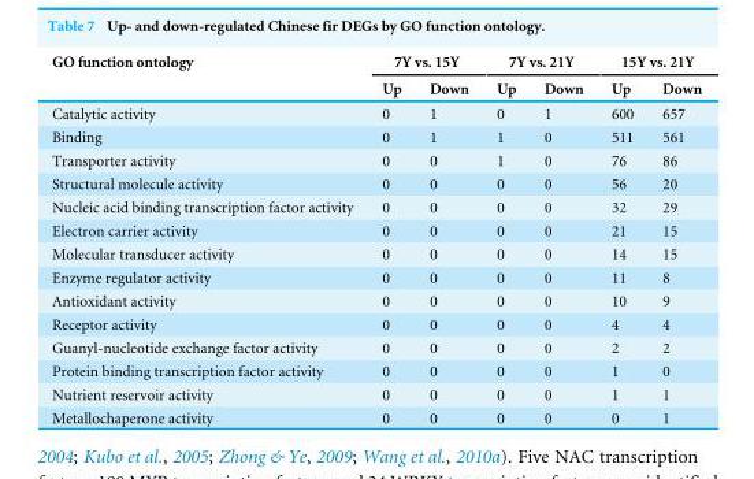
<table><thead><tr><td rowspan="2">GO function ontology</td><td colspan="2">7Y vs. 15Y</td><td colspan="2">7Y vs. 21Y</td><td colspan="2">15Y vs. 21Y</td></tr><tr><td>Up</td><td>Down</td><td>Up</td><td>Down</td><td>Up</td><td>Down</td></tr></thead><tbody><tr><td>Catalytic activity</td><td>0</td><td>1</td><td>0</td><td>1</td><td>600</td><td>657</td></tr><tr><td>Binding</td><td>0</td><td>1</td><td>1</td><td>0</td><td>511</td><td>561</td></tr><tr><td>Transporter activity</td><td>0</td><td>0</td><td>1</td><td>0</td><td>76</td><td>86</td></tr><tr><td>Structural molecule activity</td><td>0</td><td>0</td><td>0</td><td>0</td><td>56</td><td>20</td></tr><tr><td>Nucleic acid binding transcription factor activity</td><td>0</td><td>0</td><td>0</td><td>0</td><td>32</td><td>29</td></tr><tr><td>Electron carrier activity</td><td>0</td><td>0</td><td>0</td><td>0</td><td>21</td><td>15</td></tr><tr><td>Molecular transducer activity</td><td>0</td><td>0</td><td>0</td><td>0</td><td>14</td><td>15</td></tr><tr><td>Enzyme regulator activity</td><td>0</td><td>0</td><td>0</td><td>0</td><td>11</td><td>8</td></tr><tr><td>Antioxidant activity</td><td>0</td><td>0</td><td>0</td><td>0</td><td>10</td><td>9</td></tr><tr><td>Receptor activity</td><td>0</td><td>0</td><td>0</td><td>0</td><td>4</td><td>4</td></tr><tr><td>Guanyl-nucleotide exchange factor activity</td><td>0</td><td>0</td><td>0</td><td>0</td><td>2</td><td>2</td></tr><tr><td>Protein binding transcription factor activity</td><td>0</td><td>0</td><td>0</td><td>0</td><td>1</td><td>0</td></tr><tr><td>Nutrient reservoir activity</td><td>0</td><td>0</td><td>0</td><td>0</td><td>1</td><td>1</td></tr><tr><td>Metallochaperone activity</td><td>0</td><td>0</td><td>0</td><td>0</td><td>0</td><td>1</td></tr></tbody></table>